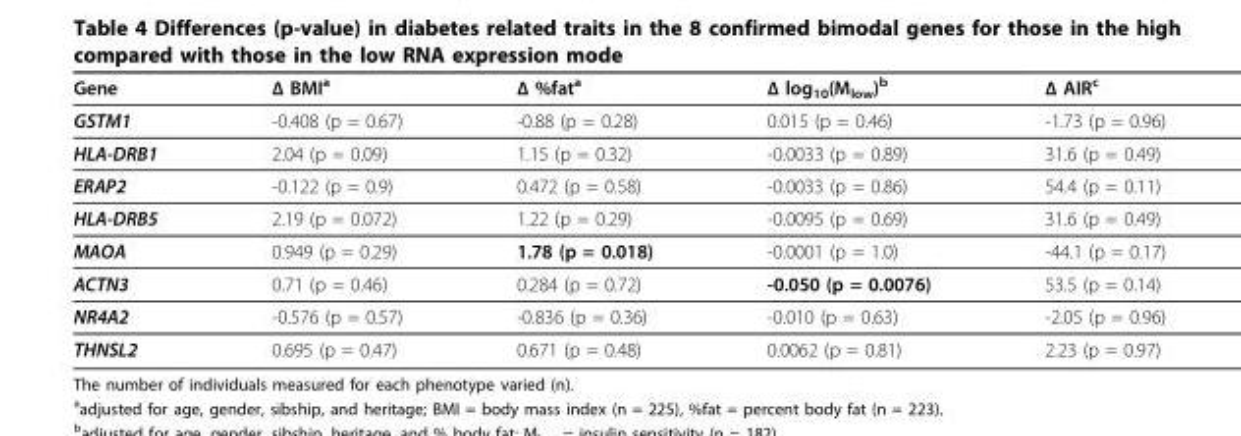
<table><thead><tr><td>Gene</td><td>Δ BMI<sup>a</sup></td><td>Δ %fat<sup>a</sup></td><td>Δ log<sub>10</sub>(M<sub>low</sub>)<sup>b</sup></td><td>Δ AIR<sup>c</sup></td></tr></thead><tbody><tr><td>GSTM1</td><td>-0.408 (p = 0.67)</td><td>-0.88 (p = 0.28)</td><td>0.015 (p = 0.46)</td><td>-1.73 (p = 0.96)</td></tr><tr><td>HLA-DRB1</td><td>2.04 (p = 0.09)</td><td>1.15 (p = 0.32)</td><td>-0.0033 (p = 0.89)</td><td>31.6 (p = 0.49)</td></tr><tr><td>ERAP2</td><td>-0.122 (p = 0.9)</td><td>0.472 (p = 0.58)</td><td>-0.0033 (p = 0.86)</td><td>54.4 (p = 0.11)</td></tr><tr><td>HLA-DRB5</td><td>2.19 (p = 0.072)</td><td>1.22 (p = 0.29)</td><td>-0.0095 (p = 0.69)</td><td>31.6 (p = 0.49)</td></tr><tr><td>MAOA</td><td>0.949 (p = 0.29)</td><td>1.78 (p = 0.018)</td><td>-0.0001 (p = 1.0)</td><td>-44.1 (p = 0.17)</td></tr><tr><td>ACTN3</td><td>0.71 (p = 0.46)</td><td>0.284 (p = 0.72)</td><td>-0.050 (p = 0.0076)</td><td>53.5 (p = 0.14)</td></tr><tr><td>NR4A2</td><td>-0.576 (p = 0.57)</td><td>-0.836 (p = 0.36)</td><td>-0.010 (p = 0.63)</td><td>-2.05 (p = 0.96)</td></tr><tr><td>THNSL2</td><td>0.695 (p = 0.47)</td><td>0.671 (p = 0.48)</td><td>0.0062 (p = 0.81)</td><td>2.23 (p = 0.97)</td></tr></tbody></table>